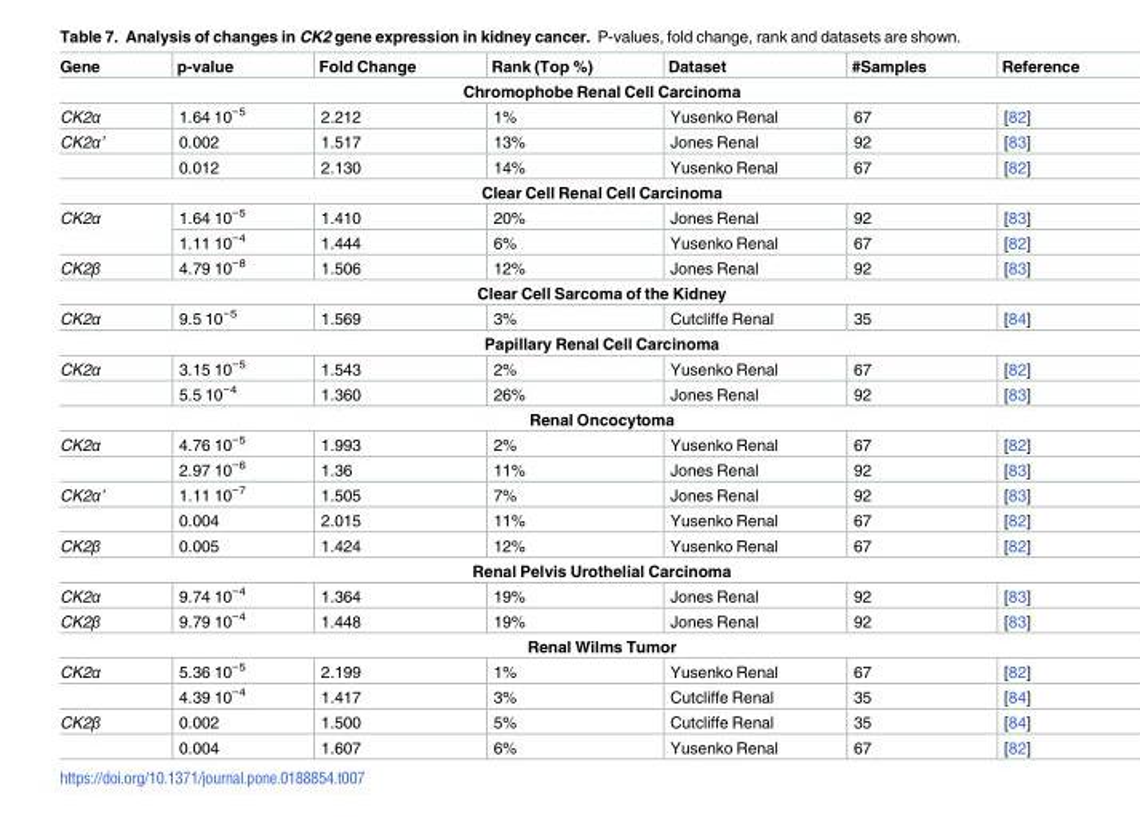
<table><thead><tr><td>Gene</td><td>p-value</td><td>Fold Change</td><td>Rank (Top %)</td><td>Dataset</td><td>#Samples</td><td>Reference</td></tr></thead><tbody><tr><td colspan="7">Chromophobe Renal Cell Carcinoma</td></tr><tr><td>CK2α</td><td>1.64 10<sup>−5</sup></td><td>2.212</td><td>1%</td><td>Yusenko Renal</td><td>67</td><td>[82]</td></tr><tr><td rowspan="2">CK2α’</td><td>0.002</td><td>1.517</td><td>13%</td><td>Jones Renal</td><td>92</td><td>[83]</td></tr><tr><td>0.012</td><td>2.130</td><td>14%</td><td>Yusenko Renal</td><td>67</td><td>[82]</td></tr><tr><td colspan="7">Clear Cell Renal Cell Carcinoma</td></tr><tr><td rowspan="2">CK2α</td><td>1.64 10<sup>−5</sup></td><td>1.410</td><td>20%</td><td>Jones Renal</td><td>92</td><td>[83]</td></tr><tr><td>1.11 10<sup>−4</sup></td><td>1.444</td><td>6%</td><td>Yusenko Renal</td><td>67</td><td>[82]</td></tr><tr><td>CK2β</td><td>4.79 10<sup>−8</sup></td><td>1.506</td><td>12%</td><td>Jones Renal</td><td>92</td><td>[83]</td></tr><tr><td colspan="7">Clear Cell Sarcoma of the Kidney</td></tr><tr><td>CK2α</td><td>9.5 10<sup>−5</sup></td><td>1.569</td><td>3%</td><td>Cutcliffe Renal</td><td>35</td><td>[84]</td></tr><tr><td colspan="7">Papillary Renal Cell Carcinoma</td></tr><tr><td rowspan="2">CK2α</td><td>3.15 10<sup>−5</sup></td><td>1.543</td><td>2%</td><td>Yusenko Renal</td><td>67</td><td>[82]</td></tr><tr><td>5.5 10<sup>−4</sup></td><td>1.360</td><td>26%</td><td>Jones Renal</td><td>92</td><td>[83]</td></tr><tr><td colspan="7">Renal Oncocytoma</td></tr><tr><td rowspan="2">CK2α</td><td>4.76 10<sup>−5</sup></td><td>1.993</td><td>2%</td><td>Yusenko Renal</td><td>67</td><td>[82]</td></tr><tr><td>2.97 10<sup>−6</sup></td><td>1.36</td><td>11%</td><td>Jones Renal</td><td>92</td><td>[83]</td></tr><tr><td rowspan="2">CK2α’</td><td>1.11 10<sup>−7</sup></td><td>1.505</td><td>7%</td><td>Jones Renal</td><td>92</td><td>[83]</td></tr><tr><td>0.004</td><td>2.015</td><td>11%</td><td>Yusenko Renal</td><td>67</td><td>[82]</td></tr><tr><td>CK2β</td><td>0.005</td><td>1.424</td><td>12%</td><td>Yusenko Renal</td><td>67</td><td>[82]</td></tr><tr><td colspan="7">Renal Pelvis Urothelial Carcinoma</td></tr><tr><td>CK2α</td><td>9.74 10<sup>−4</sup></td><td>1.364</td><td>19%</td><td>Jones Renal</td><td>92</td><td>[83]</td></tr><tr><td>CK2β</td><td>9.79 10<sup>−4</sup></td><td>1.448</td><td>19%</td><td>Jones Renal</td><td>92</td><td>[83]</td></tr><tr><td colspan="7">Renal Wilms Tumor</td></tr><tr><td rowspan="2">CK2α</td><td>5.36 10<sup>−5</sup></td><td>2.199</td><td>1%</td><td>Yusenko Renal</td><td>67</td><td>[82]</td></tr><tr><td>4.39 10<sup>−4</sup></td><td>1.417</td><td>3%</td><td>Cutcliffe Renal</td><td>35</td><td>[84]</td></tr><tr><td rowspan="2">CK2β</td><td>0.002</td><td>1.500</td><td>5%</td><td>Cutcliffe Renal</td><td>35</td><td>[84]</td></tr><tr><td>0.004</td><td>1.607</td><td>6%</td><td>Yusenko Renal</td><td>67</td><td>[82]</td></tr></tbody></table>